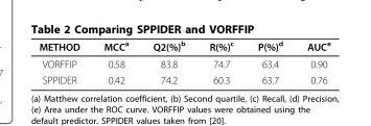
<table><thead><tr><td>METHOD</td><td>MCC<sup>a</sup></td><td>Q2(%)<sup>b</sup></td><td>R(%)<sup>c</sup></td><td>P(%)<sup>d</sup></td><td>AUC<sup>e</sup></td></tr></thead><tbody><tr><td>VORFFIP</td><td>0.58</td><td>83.8</td><td>74.7</td><td>63.4</td><td>0.90</td></tr><tr><td>SPPIDER</td><td>0.42</td><td>74.2</td><td>60.3</td><td>63.7</td><td>0.76</td></tr></tbody></table>